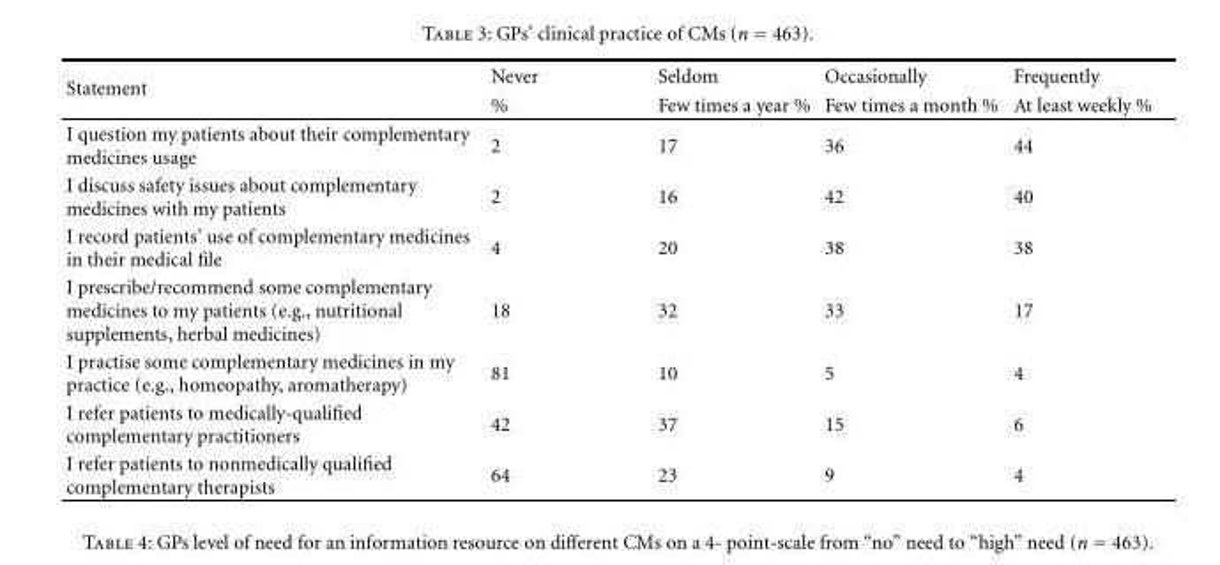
<table><thead><tr><td rowspan="2">Statement</td><td rowspan="2">Never %</td><td rowspan="2">Seldom Few times a year %</td><td rowspan="2">Occasionally Few times a month %</td><td rowspan="2">Frequently At least weekly %</td></tr><tr></tr></thead><tbody><tr><td>I question my patients about their complementary medicines usage</td><td>2</td><td>17</td><td>36</td><td>44</td></tr><tr><td>I discuss safety issues about complementary medicines with my patients</td><td>2</td><td>16</td><td>42</td><td>40</td></tr><tr><td>I record patients’ use of complementary medicines in their medical file</td><td>4</td><td>20</td><td>38</td><td>38</td></tr><tr><td>I prescribe/recommend some complementary medicines to my patients (e.g., nutritional supplements, herbal medicines)</td><td>18</td><td>32</td><td>33</td><td>17</td></tr><tr><td>I practise some complementary medicines in my practice (e.g., homeopathy, aromatherapy)</td><td>81</td><td>10</td><td>5</td><td>4</td></tr><tr><td>I refer patients to medically-qualified complementary practitioners</td><td>42</td><td>37</td><td>15</td><td>6</td></tr><tr><td>I refer patients to nonmedically qualified complementary therapists</td><td>64</td><td>23</td><td>9</td><td>4</td></tr></tbody></table>